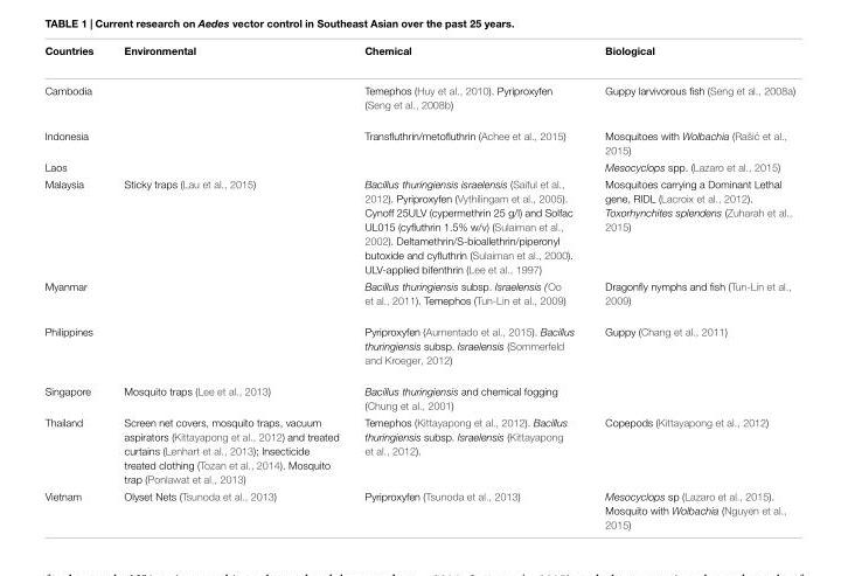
<table><thead><tr><td>Countries</td><td>Environmental</td><td>Chemical</td><td>Biological</td></tr></thead><tbody><tr><td>Cambodia</td><td></td><td>Temephos (Huy et al., 2010). Pyriproxyfen (Seng et al., 2008b)</td><td>Guppy larvivorous fish (Seng et al., 2008a)</td></tr><tr><td>Indonesia</td><td></td><td>Transfluthrin/metofluthrin (Achee et al., 2015)</td><td>Mosquitoes with Wolbachia (Raši ´c et al., 2015)</td></tr><tr><td>Laos</td><td></td><td></td><td>Mesocyclops spp. (Lazaro et al., 2015)</td></tr><tr><td>Malaysia</td><td>Sticky traps (Lau et al., 2015)</td><td>Bacillus thuringiensis israelensis (Saiful et al., 2012). Pyriproxyfen (Vythilingam et al., 2005). Cynoff 25ULV (cypermethrin 25 g/l) and Solfac UL015 (cyfluthrin 1.5% w/v) (Sulaiman et al., 2002). Deltamethrin/S-bioallethrin/piperonyl butoxide and cyfluthrin (Sulaiman et al., 2000). ULV-applied bifenthrin (Lee et al., 1997)</td><td>Mosquitoes carrying a Dominant Lethal gene, RIDL (Lacroix et al., 2012). Toxorhynchites splendens (Zuharah et al., 2015)</td></tr><tr><td>Myanmar</td><td></td><td>Bacillus thuringiensis subsp. Israelensis (Oo et al., 2011). Temephos (Tun-Lin et al., 2009)</td><td>Dragonfly nymphs and fish (Tun-Lin et al., 2009)</td></tr><tr><td>Philippines</td><td></td><td>Pyriproxyfen (Aumentado et al., 2015). Bacillus thuringiensis subsp. Israelensis (Sommerfeld and Kroeger, 2012)</td><td>Guppy (Chang et al., 2011)</td></tr><tr><td>Singapore</td><td>Mosquito traps (Lee et al., 2013)</td><td>Bacillus thuringiensis and chemical fogging (Chung et al., 2001)</td><td></td></tr><tr><td>Thailand</td><td>Screen net covers, mosquito traps, vacuum aspirators (Kittayapong et al., 2012) and treated curtains (Lenhart et al., 2013); Insecticide treated clothing (Tozan et al., 2014). Mosquito trap (Ponlawat et al., 2013)</td><td>Temephos (Kittayapong et al., 2012). Bacillus thuringiensis subsp. Israelensis (Kittayapong et al., 2012).</td><td>Copepods (Kittayapong et al., 2012)</td></tr><tr><td>Vietnam</td><td>Olyset Nets (Tsunoda et al., 2013)</td><td>Pyriproxyfen (Tsunoda et al., 2013)</td><td>Mesocyclops sp (Lazaro et al., 2015). Mosquito with Wolbachia (Nguyen et al., 2015)</td></tr></tbody></table>